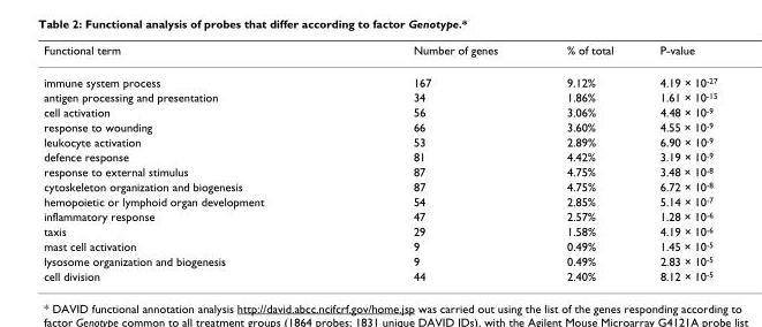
<table><thead><tr><td>Functional term</td><td>Number of genes</td><td>% of total</td><td>P-value</td></tr></thead><tbody><tr><td>immune system process</td><td>167</td><td>9.12%</td><td>4.19 × 10<sup>-27</sup></td></tr><tr><td>antigen processing and presentation</td><td>34</td><td>1.86%</td><td>1.61 × 10<sup>-15</sup></td></tr><tr><td>cell activation</td><td>56</td><td>3.06%</td><td>4.48 × 10<sup>-9</sup></td></tr><tr><td>response to wounding</td><td>66</td><td>3.60%</td><td>4.55 × 10<sup>-9</sup></td></tr><tr><td>leukocyte activation</td><td>53</td><td>2.89%</td><td>6.90 × 10<sup>-9</sup></td></tr><tr><td>defence response</td><td>81</td><td>4.42%</td><td>3.19 × 10<sup>-9</sup></td></tr><tr><td>response to external stimulus</td><td>87</td><td>4.75%</td><td>3.48 × 10<sup>-8</sup></td></tr><tr><td>cytoskeleton organization and biogenesis</td><td>87</td><td>4.75%</td><td>6.72 × 10<sup>-8</sup></td></tr><tr><td>hemopoietic or lymphoid organ development</td><td>54</td><td>2.85%</td><td>5.14 × 10<sup>-7</sup></td></tr><tr><td>inflammatory response</td><td>47</td><td>2.57%</td><td>1.28 × 10<sup>-6</sup></td></tr><tr><td>taxis</td><td>29</td><td>1.58%</td><td>4.19 × 10<sup>-6</sup></td></tr><tr><td>mast cell activation</td><td>9</td><td>0.49%</td><td>1.45 × 10<sup>-5</sup></td></tr><tr><td>lysosome organization and biogenesis</td><td>9</td><td>0.49%</td><td>2.83 × 10<sup>-5</sup></td></tr><tr><td>cell division</td><td>44</td><td>2.40%</td><td>8.12 × 10<sup>-5</sup></td></tr></tbody></table>